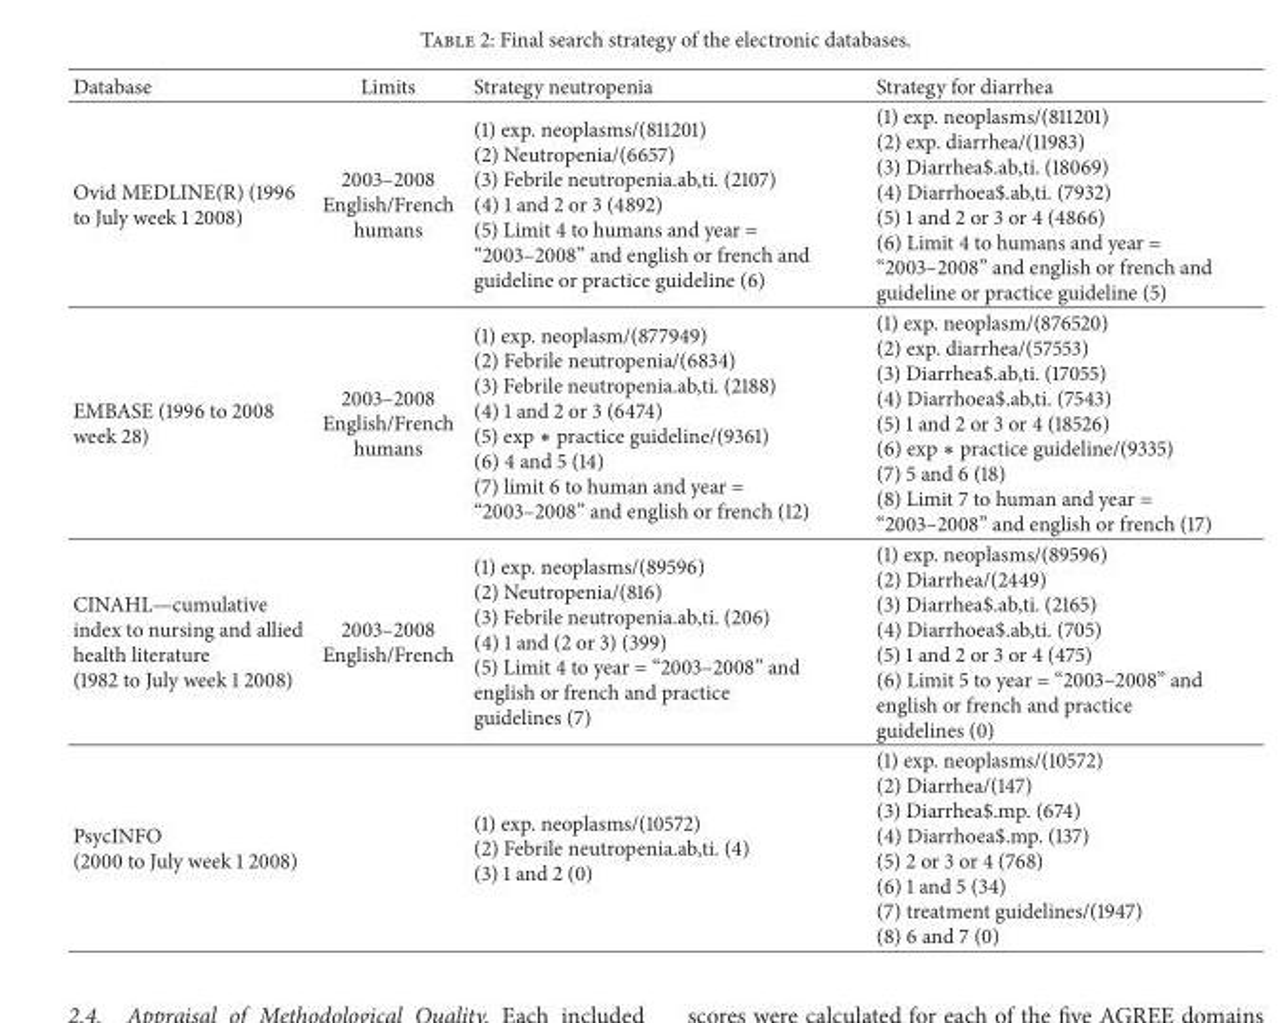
<table><thead><tr><td>Database</td><td>Limits</td><td>Strategy neutropenia</td><td>Strategy for diarrhea</td></tr></thead><tbody><tr><td>Ovid MEDLINE(R) (1996 to July week 1 2008)</td><td>2003–2008 English/French humans</td><td>(1) exp. neoplasms/(811201) (2) Neutropenia/(6657) (3) Febrile neutropenia.ab,ti. (2107) (4) 1 and 2 or 3 (4892) (5) Limit 4 to humans and year = “2003–2008” and english or french and guideline or practice guideline (6)</td><td>(1) exp. neoplasms/(811201) (2) exp. diarrhea/(11983) (3) Diarrhea$.ab,ti. (18069) (4) Diarrhoea$.ab,ti. (7932) (5) 1 and 2 or 3 or 4 (4866) (6) Limit 4 to humans and year = “2003–2008” and english or french and guideline or practice guideline (5)</td></tr><tr><td>EMBASE (1996 to 2008 week 28)</td><td>2003–2008 English/French humans</td><td>(1) exp. neoplasm/(877949) (2) Febrile neutropenia/(6834) (3) Febrile neutropenia.ab,ti. (2188) (4) 1 and 2 or 3 (6474) (5) exp ∗ practice guideline/(9361) (6) 4 and 5 (14) (7) limit 6 to human and year = “2003–2008” and english or french (12)</td><td>(1) exp. neoplasm/(876520) (2) exp. diarrhea/(57553) (3) Diarrhea$.ab,ti. (17055) (4) Diarrhoea$.ab,ti. (7543) (5) 1 and 2 or 3 or 4 (18526) (6) exp ∗ practice guideline/(9335) (7) 5 and 6 (18) (8) Limit 7 to human and year = “2003–2008” and english or french (17)</td></tr><tr><td>CINAHL—cumulative index to nursing and allied health literature (1982 to July week 1 2008)</td><td>2003–2008 English/French</td><td>(1) exp. neoplasms/(89596) (2) Neutropenia/(816) (3) Febrile neutropenia.ab,ti. (206) (4) 1 and (2 or 3) (399) (5) Limit 4 to year = “2003–2008” and english or french and practice guidelines (7)</td><td>(1) exp. neoplasms/(89596) (2) Diarrhea/(2449) (3) Diarrhea$.ab,ti. (2165) (4) Diarrhoea$.ab,ti. (705) (5) 1 and 2 or 3 or 4 (475) (6) Limit 5 to year = “2003–2008” and english or french and practice guidelines (0)</td></tr><tr><td>PsycINFO (2000 to July week 1 2008)</td><td></td><td>(1) exp. neoplasms/(10572) (2) Febrile neutropenia.ab,ti. (4) (3) 1 and 2 (0)</td><td>(1) exp. neoplasms/(10572) (2) Diarrhea/(147) (3) Diarrhea$.mp. (674) (4) Diarrhoea$.mp. (137) (5) 2 or 3 or 4 (768) (6) 1 and 5 (34) (7) treatment guidelines/(1947) (8) 6 and 7 (0)</td></tr></tbody></table>